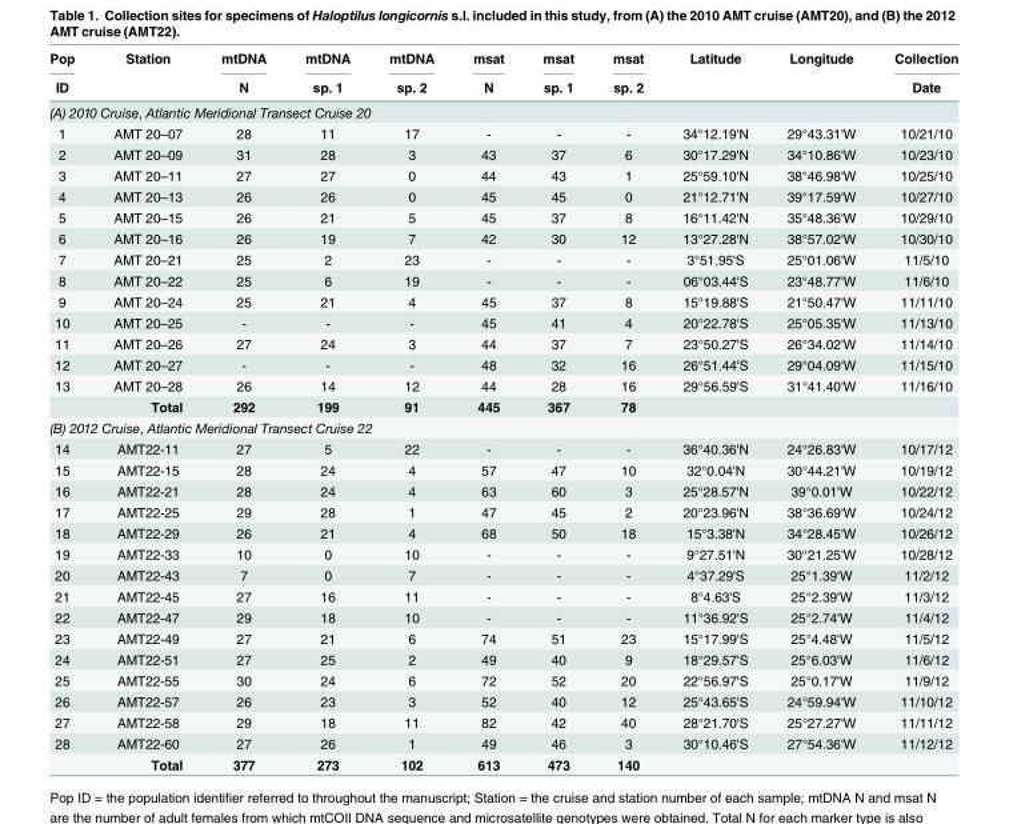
<table><thead><tr><td rowspan="2">Pop ID</td><td rowspan="2">Station</td><td rowspan="2">mtDNA N</td><td rowspan="2">mtDNA sp. 1</td><td rowspan="2">mtDNA sp. 2</td><td rowspan="2">msat N</td><td rowspan="2">msat sp. 1</td><td rowspan="2">msat sp. 2</td><td rowspan="2">Latitude</td><td rowspan="2">Longitude</td><td rowspan="2">Collection Date</td></tr><tr></tr></thead><tbody><tr><td colspan="11">(A) 2010 Cruise, Atlantic Meridional Transect Cruise 20</td></tr><tr><td>1</td><td>AMT 20–07</td><td>28</td><td>11</td><td>17</td><td>-</td><td>-</td><td>-</td><td>34°12.19&#x27;N</td><td>29°43.31&#x27;W</td><td>10/21/10</td></tr><tr><td>2</td><td>AMT 20–09</td><td>31</td><td>28</td><td>3</td><td>43</td><td>37</td><td>6</td><td>30°17.29&#x27;N</td><td>34°10.86&#x27;W</td><td>10/23/10</td></tr><tr><td>3</td><td>AMT 20–11</td><td>27</td><td>27</td><td>0</td><td>44</td><td>43</td><td>1</td><td>25°59.10&#x27;N</td><td>38°46.98&#x27;W</td><td>10/25/10</td></tr><tr><td>4</td><td>AMT 20–13</td><td>26</td><td>26</td><td>0</td><td>45</td><td>45</td><td>0</td><td>21°12.71&#x27;N</td><td>39°17.59&#x27;W</td><td>10/27/10</td></tr><tr><td>5</td><td>AMT 20–15</td><td>26</td><td>21</td><td>5</td><td>45</td><td>37</td><td>8</td><td>16°11.42&#x27;N</td><td>35°48.36&#x27;W</td><td>10/29/10</td></tr><tr><td>6</td><td>AMT 20–16</td><td>26</td><td>19</td><td>7</td><td>42</td><td>30</td><td>12</td><td>13°27.28&#x27;N</td><td>38°57.02&#x27;W</td><td>10/30/10</td></tr><tr><td>7</td><td>AMT 20–21</td><td>25</td><td>2</td><td>23</td><td>-</td><td>-</td><td>-</td><td>3°51.95&#x27;S</td><td>25°01.06&#x27;W</td><td>11/5/10</td></tr><tr><td>8</td><td>AMT 20–22</td><td>25</td><td>6</td><td>19</td><td>-</td><td>-</td><td>-</td><td>06°03.44&#x27;S</td><td>23°48.77&#x27;W</td><td>11/6/10</td></tr><tr><td>9</td><td>AMT 20–24</td><td>25</td><td>21</td><td>4</td><td>45</td><td>37</td><td>8</td><td>15°19.88&#x27;S</td><td>21°50.47&#x27;W</td><td>11/11/10</td></tr><tr><td>10</td><td>AMT 20–25</td><td>-</td><td>-</td><td>-</td><td>45</td><td>41</td><td>4</td><td>20°22.78&#x27;S</td><td>25°05.35&#x27;W</td><td>11/13/10</td></tr><tr><td>11</td><td>AMT 20–26</td><td>27</td><td>24</td><td>3</td><td>44</td><td>37</td><td>7</td><td>23°50.27&#x27;S</td><td>26°34.02&#x27;W</td><td>11/14/10</td></tr><tr><td>12</td><td>AMT 20–27</td><td>-</td><td>-</td><td>-</td><td>48</td><td>32</td><td>16</td><td>26°51.44&#x27;S</td><td>29°04.09&#x27;W</td><td>11/15/10</td></tr><tr><td rowspan="2">13</td><td>AMT 20–28</td><td>26</td><td>14</td><td>12</td><td>44</td><td>28</td><td>16</td><td>29°56.59&#x27;S</td><td>31°41.40&#x27;W</td><td>11/16/10</td></tr><tr><td>Total</td><td>292</td><td>199</td><td>91</td><td>445</td><td>367</td><td>78</td><td></td><td></td><td></td></tr><tr><td colspan="11">(B) 2012 Cruise, Atlantic Meridional Transect Cruise 22</td></tr><tr><td>14</td><td>AMT22-11</td><td>27</td><td>5</td><td>22</td><td>-</td><td>-</td><td>-</td><td>36°40.36&#x27;N</td><td>24°26.83&#x27;W</td><td>10/17/12</td></tr><tr><td>15</td><td>AMT22-15</td><td>28</td><td>24</td><td>4</td><td>57</td><td>47</td><td>10</td><td>32°0.04&#x27;N</td><td>30°44.21&#x27;W</td><td>10/19/12</td></tr><tr><td>16</td><td>AMT22-21</td><td>28</td><td>24</td><td>4</td><td>63</td><td>60</td><td>3</td><td>25°28.57&#x27;N</td><td>39°0.01&#x27;W</td><td>10/22/12</td></tr><tr><td>17</td><td>AMT22-25</td><td>29</td><td>28</td><td>1</td><td>47</td><td>45</td><td>2</td><td>20°23.96&#x27;N</td><td>38°36.69&#x27;W</td><td>10/24/12</td></tr><tr><td>18</td><td>AMT22-29</td><td>26</td><td>21</td><td>4</td><td>68</td><td>50</td><td>18</td><td>15°3.38&#x27;N</td><td>34°28.45&#x27;W</td><td>10/26/12</td></tr><tr><td>19</td><td>AMT22-33</td><td>10</td><td>0</td><td>10</td><td>-</td><td>-</td><td>-</td><td>9°27.51&#x27;N</td><td>30°21.25&#x27;W</td><td>10/28/12</td></tr><tr><td>20</td><td>AMT22-43</td><td>7</td><td>0</td><td>7</td><td>-</td><td>-</td><td>-</td><td>4°37.29&#x27;S</td><td>25°1.39&#x27;W</td><td>11/2/12</td></tr><tr><td>21</td><td>AMT22-45</td><td>27</td><td>16</td><td>11</td><td>-</td><td>-</td><td>-</td><td>8°4.63&#x27;S</td><td>25°2.39&#x27;W</td><td>11/3/12</td></tr><tr><td>22</td><td>AMT22-47</td><td>29</td><td>18</td><td>10</td><td>-</td><td>-</td><td>-</td><td>11°36.92&#x27;S</td><td>25°2.74&#x27;W</td><td>11/4/12</td></tr><tr><td>23</td><td>AMT22-49</td><td>27</td><td>21</td><td>6</td><td>74</td><td>51</td><td>23</td><td>15°17.99&#x27;S</td><td>25°4.48&#x27;W</td><td>11/5/12</td></tr><tr><td>24</td><td>AMT22-51</td><td>27</td><td>25</td><td>2</td><td>49</td><td>40</td><td>9</td><td>18°29.57&#x27;S</td><td>25°6.03&#x27;W</td><td>11/6/12</td></tr><tr><td>25</td><td>AMT22-55</td><td>30</td><td>24</td><td>6</td><td>72</td><td>52</td><td>20</td><td>22°56.97&#x27;S</td><td>25°0.17&#x27;W</td><td>11/9/12</td></tr><tr><td>26</td><td>AMT22-57</td><td>26</td><td>23</td><td>3</td><td>52</td><td>40</td><td>12</td><td>25°43.65&#x27;S</td><td>24°59.94&#x27;W</td><td>11/10/12</td></tr><tr><td>27</td><td>AMT22-58</td><td>29</td><td>18</td><td>11</td><td>82</td><td>42</td><td>40</td><td>28°21.70&#x27;S</td><td>25°27.27&#x27;W</td><td>11/11/12</td></tr><tr><td rowspan="2">28</td><td>AMT22-60</td><td>27</td><td>26</td><td>1</td><td>49</td><td>46</td><td>3</td><td>30°10.46&#x27;S</td><td>27°54.36&#x27;W</td><td>11/12/12</td></tr><tr><td>Total</td><td>377</td><td>273</td><td>102</td><td>613</td><td>473</td><td>140</td><td></td><td></td><td></td></tr></tbody></table>